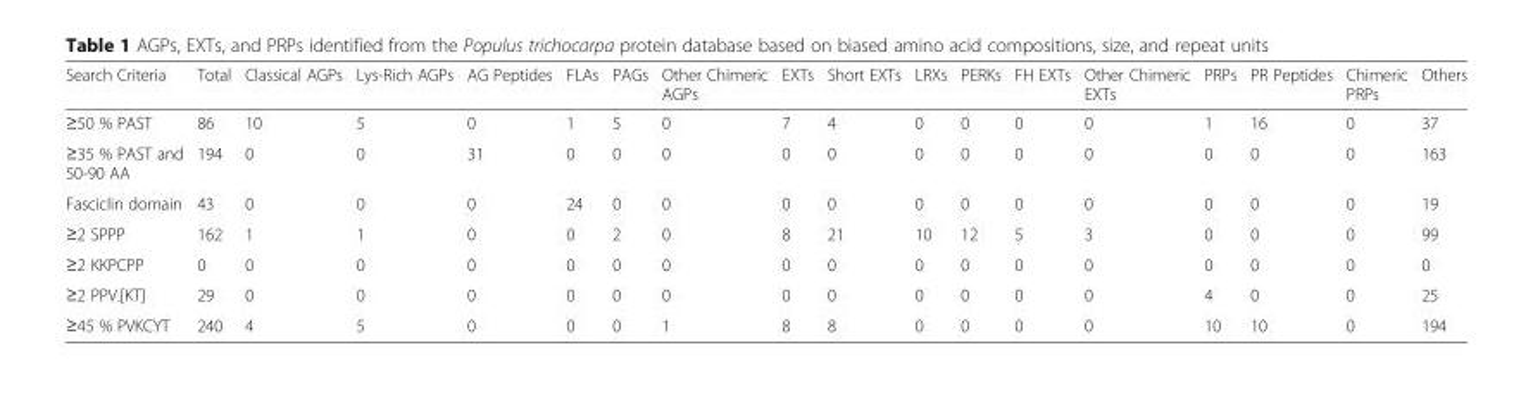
<table><thead><tr><td>Search Criteria</td><td>Total</td><td>Classical AGPs</td><td>Lys-Rich AGPs</td><td>AG Peptides</td><td>FLAs</td><td>PAGs</td><td>Other Chimeric AGPs</td><td>EXTs</td><td>Short EXTs</td><td>LRXs</td><td>PERKs</td><td>FH EXTs</td><td>Other Chimeric EXTs</td><td>PRPs</td><td>PR Peptides</td><td>Chimeric PRPs</td><td>Others</td></tr></thead><tbody><tr><td>≥50 % PAST</td><td>86</td><td>10</td><td>5</td><td>0</td><td>1</td><td>5</td><td>0</td><td>7</td><td>4</td><td>0</td><td>0</td><td>0</td><td>0</td><td>1</td><td>16</td><td>0</td><td>37</td></tr><tr><td>≥35 % PAST and 50-90 AA</td><td>194</td><td>0</td><td>0</td><td>31</td><td>0</td><td>0</td><td>0</td><td>0</td><td>0</td><td>0</td><td>0</td><td>0</td><td>0</td><td>0</td><td>0</td><td>0</td><td>163</td></tr><tr><td>Fasciclin domain</td><td>43</td><td>0</td><td>0</td><td>0</td><td>24</td><td>0</td><td>0</td><td>0</td><td>0</td><td>0</td><td>0</td><td>0</td><td>0</td><td>0</td><td>0</td><td>0</td><td>19</td></tr><tr><td>≥2 SPPP</td><td>162</td><td>1</td><td>1</td><td>0</td><td>0</td><td>2</td><td>0</td><td>8</td><td>21</td><td>10</td><td>12</td><td>5</td><td>3</td><td>0</td><td>0</td><td>0</td><td>99</td></tr><tr><td>≥2 KKPCPP</td><td>0</td><td>0</td><td>0</td><td>0</td><td>0</td><td>0</td><td>0</td><td>0</td><td>0</td><td>0</td><td>0</td><td>0</td><td>0</td><td>0</td><td>0</td><td>0</td><td>0</td></tr><tr><td>≥2 PPV.[KT]</td><td>29</td><td>0</td><td>0</td><td>0</td><td>0</td><td>0</td><td>0</td><td>0</td><td>0</td><td>0</td><td>0</td><td>0</td><td>0</td><td>4</td><td>0</td><td>0</td><td>25</td></tr><tr><td>≥45 % PVKCYT</td><td>240</td><td>4</td><td>5</td><td>0</td><td>0</td><td>0</td><td>1</td><td>8</td><td>8</td><td>0</td><td>0</td><td>0</td><td>0</td><td>10</td><td>10</td><td>0</td><td>194</td></tr></tbody></table>